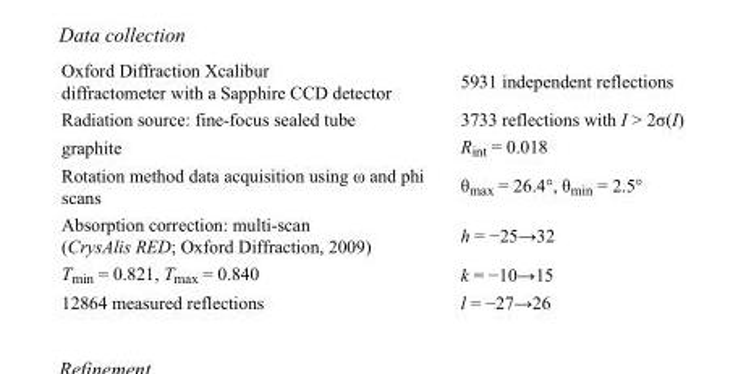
<table><tbody><tr><td>Oxford Diffraction Xcalibur diffractometer with a Sapphire CCD detector</td><td>5931 independent reflections</td></tr><tr><td>Radiation source: fine-focus sealed tube</td><td>3733 reflections with I &gt; 2σ(I)</td></tr><tr><td>graphite</td><td>R<sub>int</sub> = 0.018</td></tr><tr><td>Rotation method data acquisition using ω and phi scans</td><td>θ<sub>max</sub> = 26.4°, θ<sub>min</sub> = 2.5°</td></tr><tr><td>Absorption correction: multi-scan (CrysAlis RED; Oxford Diffraction, 2009)</td><td>h = −25→32</td></tr><tr><td>T<sub>min</sub> = 0.821, T<sub>max</sub> = 0.840</td><td>k = −10→15</td></tr><tr><td>12864 measured reflections</td><td>l = −27→26</td></tr></tbody></table>